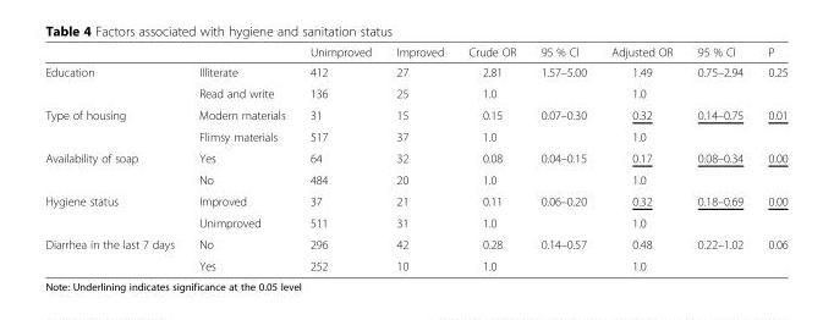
<table><thead><tr><td></td><td></td><td>Unimproved</td><td>Improved</td><td>Crude OR</td><td>95 % CI</td><td>Adjusted OR</td><td>95 % CI</td><td>P</td></tr></thead><tbody><tr><td rowspan="2">Education</td><td>Illiterate</td><td>412</td><td>27</td><td>2.81</td><td>1.57–5.00</td><td>1.49</td><td>0.75–2.94</td><td>0.25</td></tr><tr><td>Read and write</td><td>136</td><td>25</td><td>1.0</td><td></td><td>1.0</td><td></td><td></td></tr><tr><td rowspan="2">Type of housing</td><td>Modern materials</td><td>31</td><td>15</td><td>0.15</td><td>0.07–0.30</td><td>0.32</td><td>0.14–0.75</td><td>0.01</td></tr><tr><td>Flimsy materials</td><td>517</td><td>37</td><td>1.0</td><td></td><td>1.0</td><td></td><td></td></tr><tr><td rowspan="2">Availability of soap</td><td>Yes</td><td>64</td><td>32</td><td>0.08</td><td>0.04–0.15</td><td>0.17</td><td>0.08–0.34</td><td>0.00</td></tr><tr><td>No</td><td>484</td><td>20</td><td>1.0</td><td></td><td>1.0</td><td></td><td></td></tr><tr><td rowspan="2">Hygiene status</td><td>Improved</td><td>37</td><td>21</td><td>0.11</td><td>0.06–0.20</td><td>0.32</td><td>0.18–0.69</td><td>0.00</td></tr><tr><td>Unimproved</td><td>511</td><td>31</td><td>1.0</td><td></td><td>1.0</td><td></td><td></td></tr><tr><td rowspan="2">Diarrhea in the last 7 days</td><td>No</td><td>296</td><td>42</td><td>0.28</td><td>0.14–0.57</td><td>0.48</td><td>0.22–1.02</td><td>0.06</td></tr><tr><td>Yes</td><td>252</td><td>10</td><td>1.0</td><td></td><td>1.0</td><td></td><td></td></tr></tbody></table>